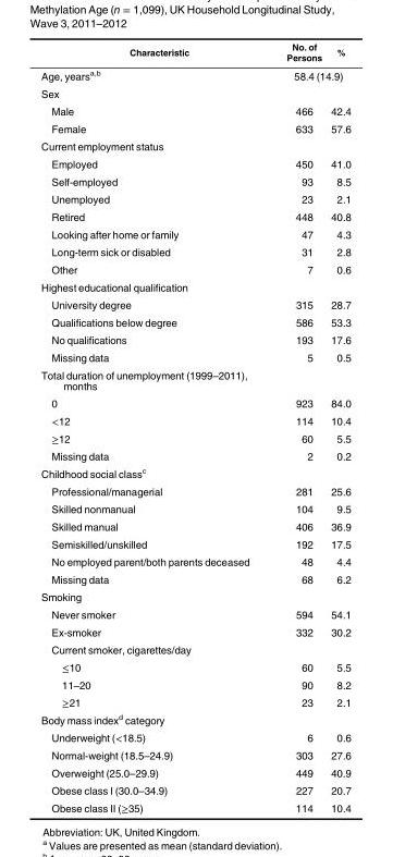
<table><thead><tr><td>Characteristic</td><td>No. of Persons</td><td>%</td></tr></thead><tbody><tr><td>Age, years<sup>a,b</sup></td><td colspan="2">58.4 (14.9)</td></tr><tr><td colspan="3">Sex</td></tr><tr><td>Male</td><td>466</td><td>42.4</td></tr><tr><td>Female</td><td>633</td><td>57.6</td></tr><tr><td colspan="3">Current employment status</td></tr><tr><td>Employed</td><td>450</td><td>41.0</td></tr><tr><td>Self-employed</td><td>93</td><td>8.5</td></tr><tr><td>Unemployed</td><td>23</td><td>2.1</td></tr><tr><td>Retired</td><td>448</td><td>40.8</td></tr><tr><td>Looking after home or family</td><td>47</td><td>4.3</td></tr><tr><td>Long-term sick or disabled</td><td>31</td><td>2.8</td></tr><tr><td>Other</td><td>7</td><td>0.6</td></tr><tr><td colspan="3">Highest educational qualification</td></tr><tr><td>University degree</td><td>315</td><td>28.7</td></tr><tr><td>Qualifications below degree</td><td>586</td><td>53.3</td></tr><tr><td>No qualifications</td><td>193</td><td>17.6</td></tr><tr><td>Missing data</td><td>5</td><td>0.5</td></tr><tr><td colspan="3">Total duration of unemployment (1999–2011), months</td></tr><tr><td>0</td><td>923</td><td>84.0</td></tr><tr><td>&lt;12</td><td>114</td><td>10.4</td></tr><tr><td>≥12</td><td>60</td><td>5.5</td></tr><tr><td>Missing data</td><td>2</td><td>0.2</td></tr><tr><td colspan="3">Childhood social class<sup>c</sup></td></tr><tr><td>Professional/managerial</td><td>281</td><td>25.6</td></tr><tr><td>Skilled nonmanual</td><td>104</td><td>9.5</td></tr><tr><td>Skilled manual</td><td>406</td><td>36.9</td></tr><tr><td>Semiskilled/unskilled</td><td>192</td><td>17.5</td></tr><tr><td>No employed parent/both parents deceased</td><td>48</td><td>4.4</td></tr><tr><td>Missing data</td><td>68</td><td>6.2</td></tr><tr><td colspan="3">Smoking</td></tr><tr><td>Never smoker</td><td>594</td><td>54.1</td></tr><tr><td>Ex-smoker</td><td>332</td><td>30.2</td></tr><tr><td colspan="3">Current smoker, cigarettes/day</td></tr><tr><td>≤10</td><td>60</td><td>5.5</td></tr><tr><td>11–20</td><td>90</td><td>8.2</td></tr><tr><td>≥21</td><td>23</td><td>2.1</td></tr><tr><td colspan="3">Body mass index<sup>d</sup> category</td></tr><tr><td>Underweight (&lt;18.5)</td><td>6</td><td>0.6</td></tr><tr><td>Normal-weight (18.5–24.9)</td><td>303</td><td>27.6</td></tr><tr><td>Overweight (25.0–29.9)</td><td>449</td><td>40.9</td></tr><tr><td>Obese class I (30.0–34.9)</td><td>227</td><td>20.7</td></tr><tr><td>Obese class II (≥35)</td><td>114</td><td>10.4</td></tr></tbody></table>